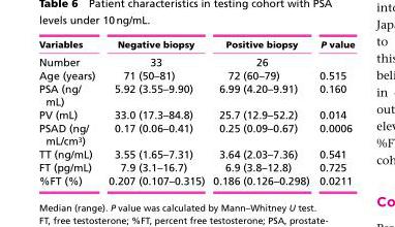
<table><thead><tr><td>Variables</td><td>Negative biopsy</td><td>Positive biopsy</td><td>P value</td></tr></thead><tbody><tr><td>Number</td><td>33</td><td>26</td><td></td></tr><tr><td>Age (years)</td><td>71 (50–81)</td><td>72 (60–79)</td><td>0.515</td></tr><tr><td>PSA (ng/ mL)</td><td>5.92 (3.55–9.90)</td><td>6.99 (4.20–9.91)</td><td>0.160</td></tr><tr><td>PV (mL)</td><td>33.0 (17.3–84.8)</td><td>25.7 (12.9–52.2)</td><td>0.014</td></tr><tr><td>PSAD (ng/ mL/cm<sup>3</sup>)</td><td>0.17 (0.06–0.41)</td><td>0.25 (0.09–0.67)</td><td>0.0006</td></tr><tr><td>TT (ng/mL)</td><td>3.55 (1.65–7.31)</td><td>3.64 (2.03–7.36)</td><td>0.541</td></tr><tr><td>FT (pg/mL)</td><td>7.9 (3.1–16.7)</td><td>6.9 (3.8–12.8)</td><td>0.725</td></tr><tr><td>%FT (%)</td><td>0.207 (0.107–0.315)</td><td>0.186 (0.126–0.298)</td><td>0.0211</td></tr></tbody></table>